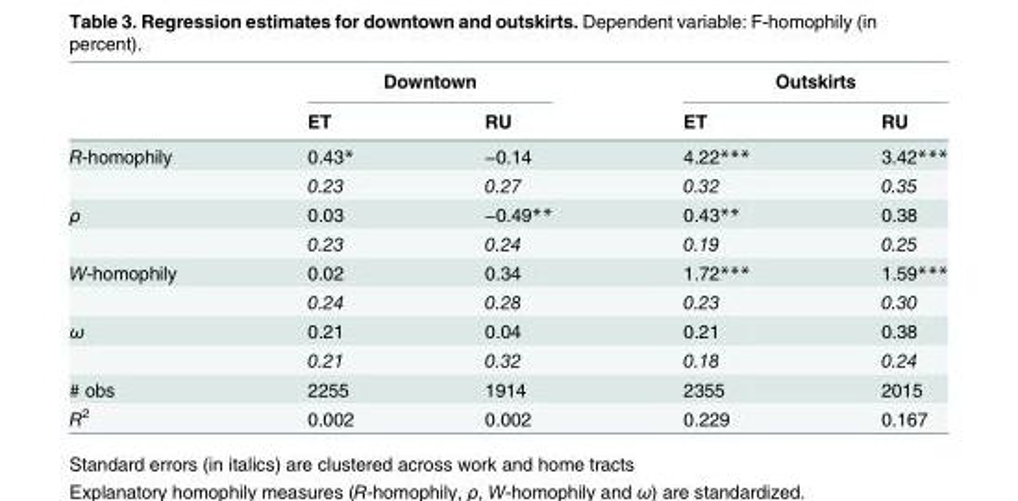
<table><thead><tr><td rowspan="2"></td><td colspan="2">Downtown</td><td colspan="2">Outskirts</td></tr><tr><td>ET</td><td>RU</td><td>ET</td><td>RU</td></tr></thead><tbody><tr><td rowspan="2">R-homophily</td><td>0.43*</td><td>−0.14</td><td>4.22***</td><td>3.42***</td></tr><tr><td>0.23</td><td>0.27</td><td>0.32</td><td>0.35</td></tr><tr><td rowspan="2">ρ</td><td>0.03</td><td>−0.49**</td><td>0.43**</td><td>0.38</td></tr><tr><td>0.23</td><td>0.24</td><td>0.19</td><td>0.25</td></tr><tr><td rowspan="2">W-homophily</td><td>0.02</td><td>0.34</td><td>1.72***</td><td>1.59***</td></tr><tr><td>0.24</td><td>0.28</td><td>0.23</td><td>0.30</td></tr><tr><td rowspan="2">ω</td><td>0.21</td><td>0.04</td><td>0.21</td><td>0.38</td></tr><tr><td>0.21</td><td>0.32</td><td>0.18</td><td>0.24</td></tr><tr><td># obs</td><td>2255</td><td>1914</td><td>2355</td><td>2015</td></tr><tr><td>R<sup>2</sup></td><td>0.002</td><td>0.002</td><td>0.229</td><td>0.167</td></tr></tbody></table>